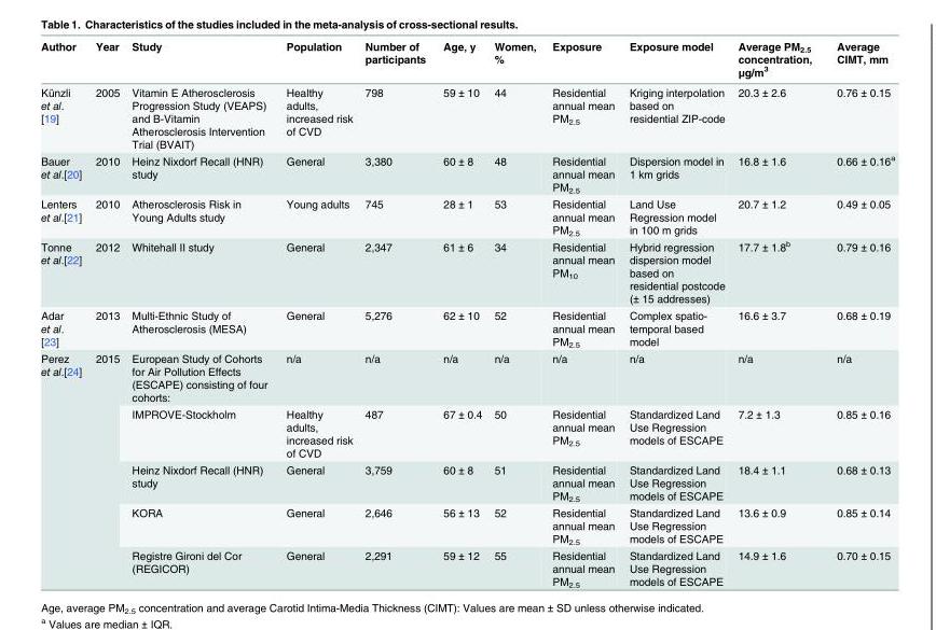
<table><thead><tr><td>Author</td><td>Year</td><td>Study</td><td>Population</td><td>Number of participants</td><td>Age, y</td><td>Women, %</td><td>Exposure</td><td>Exposure model</td><td>Average PM<sub>2.5</sub> concentration, μg/m<sup>3</sup></td><td>Average CIMT, mm</td></tr></thead><tbody><tr><td>Künzli et al. [19]</td><td>2005</td><td>Vitamin E Atherosclerosis Progression Study (VEAPS) and B-Vitamin Atherosclerosis Intervention Trial (BVAIT)</td><td>Healthy adults, increased risk of CVD</td><td>798</td><td>59 ± 10</td><td>44</td><td>Residential annual mean PM<sub>2.5</sub></td><td>Kriging interpolation based on residential ZIP-code</td><td>20.3 ± 2.6</td><td>0.76 ± 0.15</td></tr><tr><td>Bauer et al.[20]</td><td>2010</td><td>Heinz Nixdorf Recall (HNR) study</td><td>General</td><td>3,380</td><td>60 ± 8</td><td>48</td><td>Residential annual mean PM<sub>2.5</sub></td><td>Dispersion model in 1 km grids</td><td>16.8 ± 1.6</td><td>0.66 ± 0.16<sup>a</sup></td></tr><tr><td>Lenters et al.[21]</td><td>2010</td><td>Atherosclerosis Risk in Young Adults study</td><td>Young adults</td><td>745</td><td>28 ± 1</td><td>53</td><td>Residential annual mean PM<sub>2.5</sub></td><td>Land Use Regression model in 100 m grids</td><td>20.7 ± 1.2</td><td>0.49 ± 0.05</td></tr><tr><td>Tonne et al.[22]</td><td>2012</td><td>Whitehall II study</td><td>General</td><td>2,347</td><td>61 ± 6</td><td>34</td><td>Residential annual mean PM<sub>10</sub></td><td>Hybrid regression dispersion model based on residential postcode (± 15 addresses)</td><td>17.7 ± 1.8<sup>b</sup></td><td>0.79 ± 0.16</td></tr><tr><td>Adar et al. [23]</td><td>2013</td><td>Multi-Ethnic Study of Atherosclerosis (MESA)</td><td>General</td><td>5,276</td><td>62 ± 10</td><td>52</td><td>Residential annual mean PM<sub>2.5</sub></td><td>Complex spatio- temporal based model</td><td>16.6 ± 3.7</td><td>0.68 ± 0.19</td></tr><tr><td rowspan="5">Perez et al.[24]</td><td rowspan="5">2015</td><td>European Study of Cohorts for Air Pollution Effects (ESCAPE) consisting of four cohorts:</td><td>n/a</td><td>n/a</td><td>n/a</td><td>n/a</td><td>n/a</td><td>n/a</td><td>n/a</td><td>n/a</td></tr><tr><td>IMPROVE-Stockholm</td><td>Healthy adults, increased risk of CVD</td><td>487</td><td>67 ± 0.4</td><td>50</td><td>Residential annual mean PM<sub>2.5</sub></td><td>Standardized Land Use Regression models of ESCAPE</td><td>7.2 ± 1.3</td><td>0.85 ± 0.16</td></tr><tr><td>Heinz Nixdorf Recall (HNR) study</td><td>General</td><td>3,759</td><td>60 ± 8</td><td>51</td><td>Residential annual mean PM<sub>2.5</sub></td><td>Standardized Land Use Regression models of ESCAPE</td><td>18.4 ± 1.1</td><td>0.68 ± 0.13</td></tr><tr><td>KORA</td><td>General</td><td>2,646</td><td>56 ± 13</td><td>52</td><td>Residential annual mean PM<sub>2.5</sub></td><td>Standardized Land Use Regression models of ESCAPE</td><td>13.6 ± 0.9</td><td>0.85 ± 0.14</td></tr><tr><td>Registre Gironi del Cor (REGICOR)</td><td>General</td><td>2,291</td><td>59 ± 12</td><td>55</td><td>Residential annual mean PM<sub>2.5</sub></td><td>Standardized Land Use Regression models of ESCAPE</td><td>14.9 ± 1.6</td><td>0.70 ± 0.15</td></tr></tbody></table>